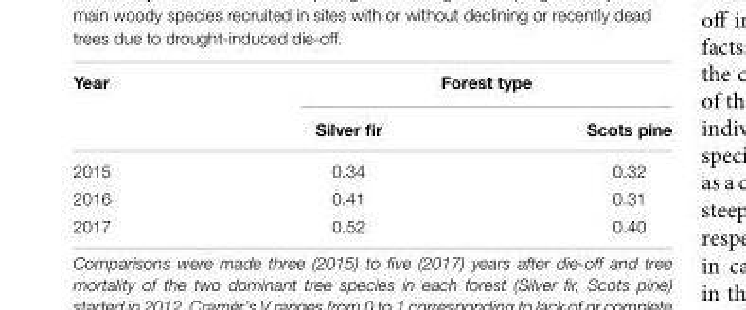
<table><thead><tr><td rowspan="2">Year</td><td colspan="2">Forest type</td></tr><tr><td>Silver fir</td><td>Scots pine</td></tr></thead><tbody><tr><td>2015</td><td>0.34</td><td>0.32</td></tr><tr><td>2016</td><td>0.41</td><td>0.31</td></tr><tr><td>2017</td><td>0.52</td><td>0.40</td></tr></tbody></table>